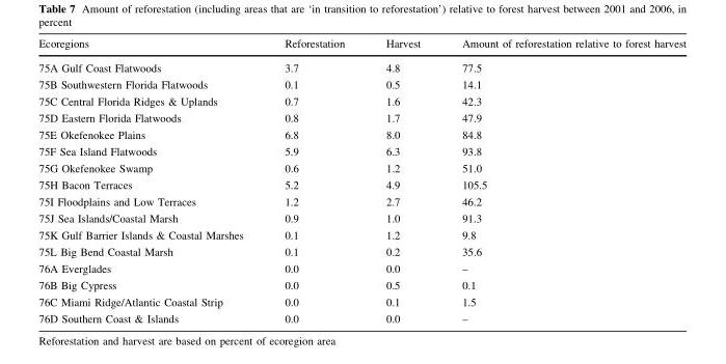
<table><thead><tr><td>Ecoregions</td><td>Reforestation</td><td>Harvest</td><td>Amount of reforestation relative to forest harvest</td></tr></thead><tbody><tr><td>75A Gulf Coast Flatwoods</td><td>3.7</td><td>4.8</td><td>77.5</td></tr><tr><td>75B Southwestern Florida Flatwoods</td><td>0.1</td><td>0.5</td><td>14.1</td></tr><tr><td>75C Central Florida Ridges &amp; Uplands</td><td>0.7</td><td>1.6</td><td>42.3</td></tr><tr><td>75D Eastern Florida Flatwoods</td><td>0.8</td><td>1.7</td><td>47.9</td></tr><tr><td>75E Okefenokee Plains</td><td>6.8</td><td>8.0</td><td>84.8</td></tr><tr><td>75F Sea Island Flatwoods</td><td>5.9</td><td>6.3</td><td>93.8</td></tr><tr><td>75G Okefenokee Swamp</td><td>0.6</td><td>1.2</td><td>51.0</td></tr><tr><td>75H Bacon Terraces</td><td>5.2</td><td>4.9</td><td>105.5</td></tr><tr><td>75I Floodplains and Low Terraces</td><td>1.2</td><td>2.7</td><td>46.2</td></tr><tr><td>75J Sea Islands/Coastal Marsh</td><td>0.9</td><td>1.0</td><td>91.3</td></tr><tr><td>75K Gulf Barrier Islands &amp; Coastal Marshes</td><td>0.1</td><td>1.2</td><td>9.8</td></tr><tr><td>75L Big Bend Coastal Marsh</td><td>0.1</td><td>0.2</td><td>35.6</td></tr><tr><td>76A Everglades</td><td>0.0</td><td>0.0</td><td>–</td></tr><tr><td>76B Big Cypress</td><td>0.0</td><td>0.5</td><td>0.1</td></tr><tr><td>76C Miami Ridge/Atlantic Coastal Strip</td><td>0.0</td><td>0.1</td><td>1.5</td></tr><tr><td>76D Southern Coast &amp; Islands</td><td>0.0</td><td>0.0</td><td>–</td></tr></tbody></table>